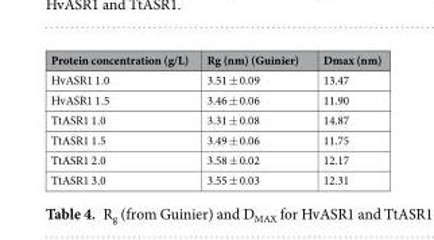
<table><thead><tr><td>Protein concentration (g/L)</td><td>Rg (nm) (Guinier)</td><td>Dmax (nm)</td></tr></thead><tbody><tr><td>HvASR1 1.0</td><td>3.51 ± 0.09</td><td>13.47</td></tr><tr><td>HvASR1 1.5</td><td>3.46 ± 0.06</td><td>11.90</td></tr><tr><td>TtASR1 1.0</td><td>3.31 ± 0.08</td><td>14.87</td></tr><tr><td>TtASR1 1.5</td><td>3.49 ± 0.06</td><td>11.75</td></tr><tr><td>TtASR1 2.0</td><td>3.58 ± 0.02</td><td>12.17</td></tr><tr><td>TtASR1 3.0</td><td>3.55 ± 0.03</td><td>12.31</td></tr></tbody></table>